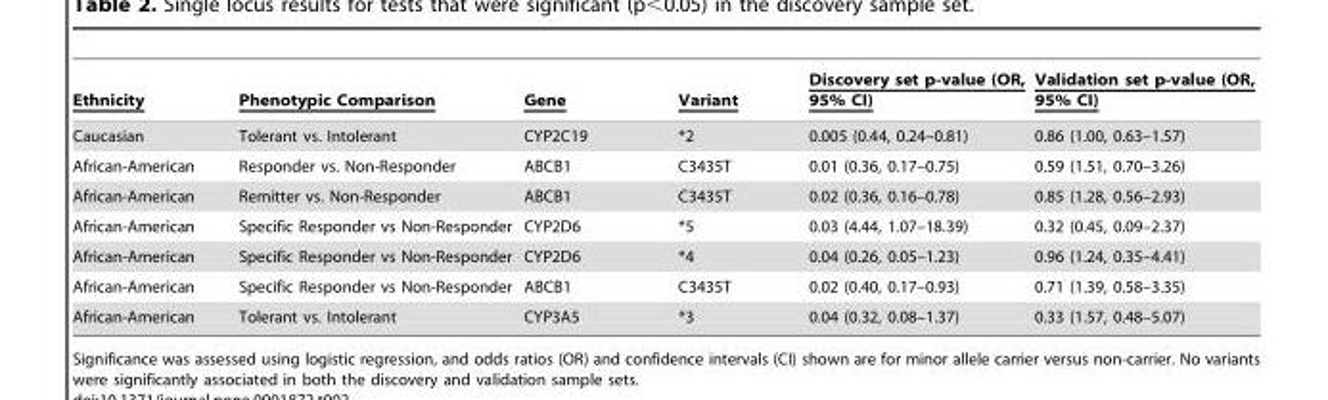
<table><thead><tr><td>Ethnicity</td><td>Phenotypic Comparison</td><td>Gene</td><td>Variant</td><td>Discovery set p-value (OR, 95% CI)</td><td>Validation set p-value (OR, 95% CI)</td></tr></thead><tbody><tr><td>Caucasian</td><td>Tolerant vs. Intolerant</td><td>CYP2C19</td><td>*2</td><td>0.005 (0.44, 0.24–0.81)</td><td>0.86 (1.00, 0.63–1.57)</td></tr><tr><td>African-American</td><td>Responder vs. Non-Responder</td><td>ABCB1</td><td>C3435T</td><td>0.01 (0.36, 0.17–0.75)</td><td>0.59 (1.51, 0.70–3.26)</td></tr><tr><td>African-American</td><td>Remitter vs. Non-Responder</td><td>ABCB1</td><td>C3435T</td><td>0.02 (0.36, 0.16–0.78)</td><td>0.85 (1.28, 0.56–2.93)</td></tr><tr><td>African-American</td><td>Specific Responder vs Non-Responder</td><td>CYP2D6</td><td>*5</td><td>0.03 (4.44, 1.07–18.39)</td><td>0.32 (0.45, 0.09–2.37)</td></tr><tr><td>African-American</td><td>Specific Responder vs Non-Responder</td><td>CYP2D6</td><td>*4</td><td>0.04 (0.26, 0.05–1.23)</td><td>0.96 (1.24, 0.35–4.41)</td></tr><tr><td>African-American</td><td>Specific Responder vs Non-Responder</td><td>ABCB1</td><td>C3435T</td><td>0.02 (0.40, 0.17–0.93)</td><td>0.71 (1.39, 0.58–3.35)</td></tr><tr><td>African-American</td><td>Tolerant vs. Intolerant</td><td>CYP3A5</td><td>*3</td><td>0.04 (0.32, 0.08–1.37)</td><td>0.33 (1.57, 0.48–5.07)</td></tr></tbody></table>